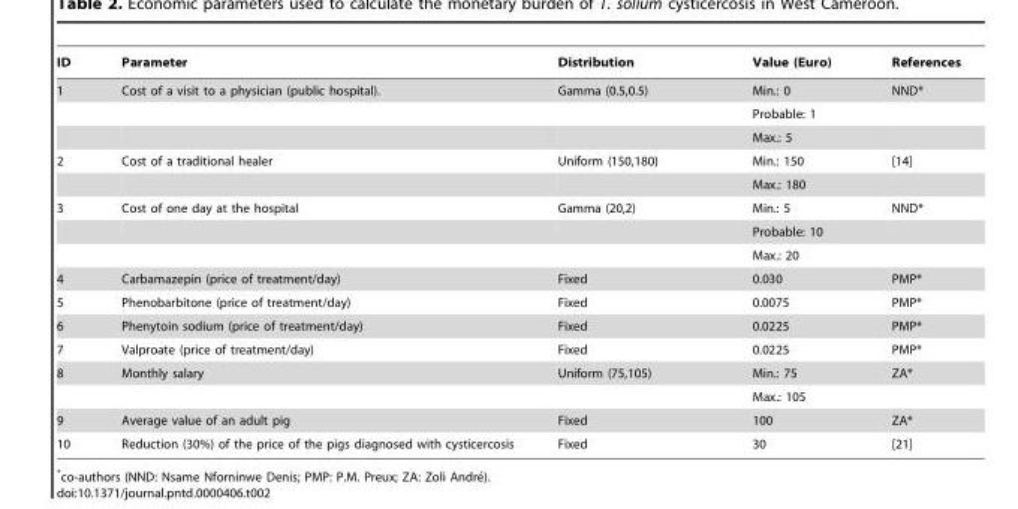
<table><thead><tr><td>ID</td><td>Parameter</td><td>Distribution</td><td>Value (Euro)</td><td>References</td></tr></thead><tbody><tr><td rowspan="3">1</td><td>Cost of a visit to a physician (public hospital).</td><td>Gamma (0.5,0.5)</td><td>Min.: 0</td><td>NND*</td></tr><tr><td></td><td></td><td>Probable: 1</td><td></td></tr><tr><td></td><td></td><td>Max.: 5</td><td></td></tr><tr><td rowspan="2">2</td><td>Cost of a traditional healer</td><td>Uniform (150,180)</td><td>Min.: 150</td><td>[14]</td></tr><tr><td></td><td></td><td>Max.: 180</td><td></td></tr><tr><td rowspan="3">3</td><td>Cost of one day at the hospital</td><td>Gamma (20,2)</td><td>Min.: 5</td><td>NND*</td></tr><tr><td></td><td></td><td>Probable: 10</td><td></td></tr><tr><td></td><td></td><td>Max.: 20</td><td></td></tr><tr><td>4</td><td>Carbamazepin (price of treatment/day)</td><td>Fixed</td><td>0.030</td><td>PMP*</td></tr><tr><td>5</td><td>Phenobarbitone (price of treatment/day)</td><td>Fixed</td><td>0.0075</td><td>PMP*</td></tr><tr><td>6</td><td>Phenytoin sodium (price of treatment/day)</td><td>Fixed</td><td>0.0225</td><td>PMP*</td></tr><tr><td>7</td><td>Valproate (price of treatment/day)</td><td>Fixed</td><td>0.0225</td><td>PMP*</td></tr><tr><td rowspan="2">8</td><td>Monthly salary</td><td>Uniform (75,105)</td><td>Min.: 75</td><td>ZA*</td></tr><tr><td></td><td></td><td>Max.: 105</td><td></td></tr><tr><td>9</td><td>Average value of an adult pig</td><td>Fixed</td><td>100</td><td>ZA*</td></tr><tr><td>10</td><td>Reduction (30%) of the price of the pigs diagnosed with cysticercosis</td><td>Fixed</td><td>30</td><td>[21]</td></tr></tbody></table>